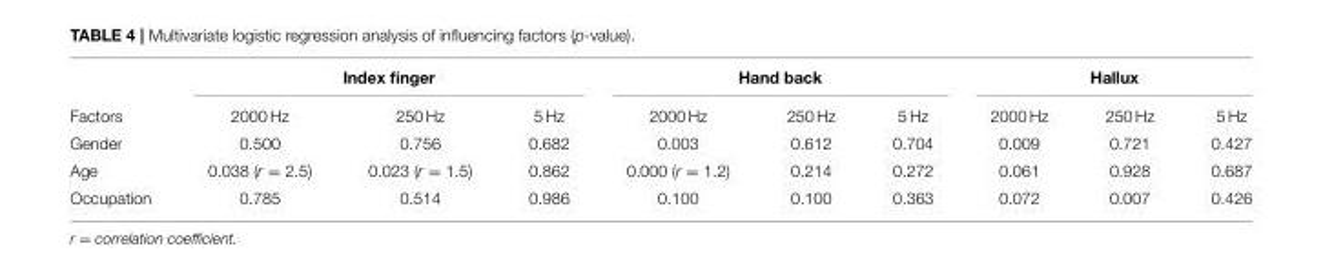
<table><thead><tr><td rowspan="2">Factors</td><td colspan="3">Index finger</td><td colspan="3">Hand back</td><td colspan="3">Hallux</td></tr><tr><td>2000 Hz</td><td>250 Hz</td><td>5 Hz</td><td>2000 Hz</td><td>250 Hz</td><td>5 Hz</td><td>2000 Hz</td><td>250 Hz</td><td>5 Hz</td></tr></thead><tbody><tr><td>Gender</td><td>0.500</td><td>0.756</td><td>0.682</td><td>0.003</td><td>0.612</td><td>0.704</td><td>0.009</td><td>0.721</td><td>0.427</td></tr><tr><td>Age</td><td>0.038 (r = 2.5)</td><td>0.023 (r = 1.5)</td><td>0.862</td><td>0.000 (r = 1.2)</td><td>0.214</td><td>0.272</td><td>0.061</td><td>0.928</td><td>0.687</td></tr><tr><td>Occupation</td><td>0.785</td><td>0.514</td><td>0.986</td><td>0.100</td><td>0.100</td><td>0.363</td><td>0.072</td><td>0.007</td><td>0.426</td></tr></tbody></table>